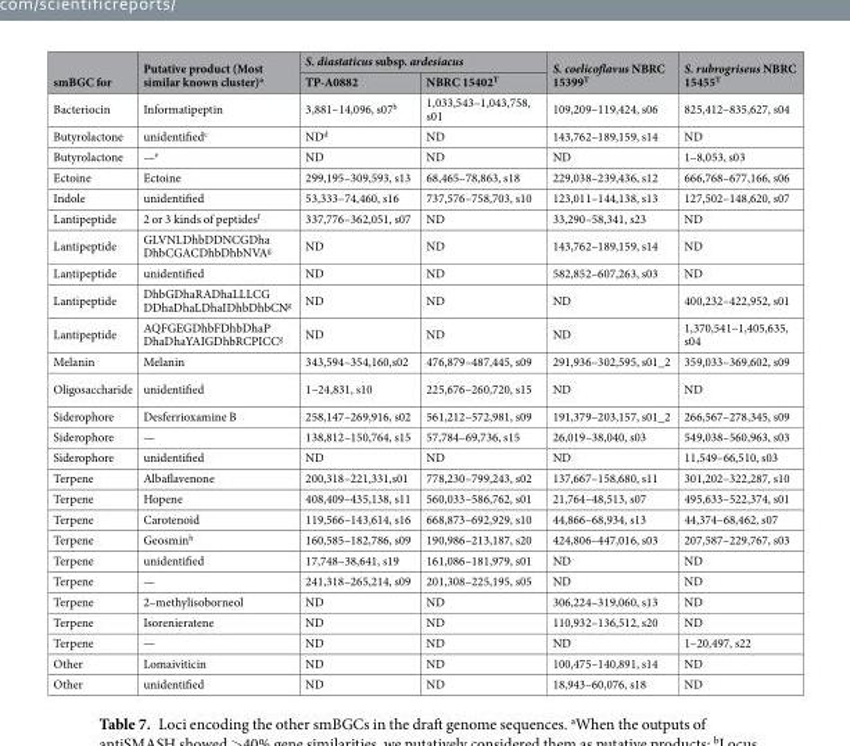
<table><thead><tr><td rowspan="2">smBGC for</td><td rowspan="2">Putative product (Most similar known cluster)<sup>a</sup></td><td colspan="2">S. diastaticus subsp. ardesiacus</td><td rowspan="2">S. coelicoflavus NBRC 15399<sup>T</sup></td><td rowspan="2">S. rubrogriseus NBRC 15455<sup>T</sup></td></tr><tr><td>TP-A0882</td><td>NBRC 15402<sup>T</sup></td></tr></thead><tbody><tr><td>Bacteriocin</td><td>Informatipeptin</td><td>3,881–14,096, s07<sup>b</sup></td><td>1,033,543–1,043,758, s01</td><td>109,209–119,424, s06</td><td>825,412–835,627, s04</td></tr><tr><td>Butyrolactone</td><td>unidentified<sup>c</sup></td><td>ND<sup>d</sup></td><td>ND</td><td>143,762–189,159, s14</td><td>ND</td></tr><tr><td>Butyrolactone</td><td>—<sup>e</sup></td><td>ND</td><td>ND</td><td>ND</td><td>1–8,053, s03</td></tr><tr><td>Ectoine</td><td>Ectoine</td><td>299,195–309,593, s13</td><td>68,465–78,863, s18</td><td>229,038–239,436, s12</td><td>666,768–677,166, s06</td></tr><tr><td>Indole</td><td>unidentified</td><td>53,333–74,460, s16</td><td>737,576–758,703, s10</td><td>123,011–144,138, s13</td><td>127,502–148,620, s07</td></tr><tr><td>Lantipeptide</td><td>2 or 3 kinds of peptides<sup>f</sup></td><td>337,776–362,051, s07</td><td>ND</td><td>33,290–58,341, s23</td><td>ND</td></tr><tr><td>Lantipeptide</td><td>GLVNLDhbDDNCGDha DhbCGACDhbDhbNVA<sup>g</sup></td><td>ND</td><td>ND</td><td>143,762–189,159, s14</td><td>ND</td></tr><tr><td>Lantipeptide</td><td>unidentified</td><td>ND</td><td>ND</td><td>582,852–607,263, s03</td><td>ND</td></tr><tr><td>Lantipeptide</td><td>DhbGDhaRADhaLLLCG DDhaDhaLDhaIDhbDhbCN<sup>g</sup></td><td>ND</td><td>ND</td><td>ND</td><td>400,232–422,952, s01</td></tr><tr><td>Lantipeptide</td><td>AQFGEGDhbFDhbDhaP DhaDhaYAIGDhbRCPICC<sup>g</sup></td><td>ND</td><td>ND</td><td>ND</td><td>1,370,541–1,405,635, s04</td></tr><tr><td>Melanin</td><td>Melanin</td><td>343,594–354,160,s02</td><td>476,879–487,445, s09</td><td>291,936–302,595, s01_2</td><td>359,033–369,602, s09</td></tr><tr><td>Oligosaccharide</td><td>unidentified</td><td>1–24,831, s10</td><td>225,676–260,720, s15</td><td>ND</td><td>ND</td></tr><tr><td>Siderophore</td><td>Desferrioxamine B</td><td>258,147–269,916, s02</td><td>561,212–572,981, s09</td><td>191,379–203,157, s01_2</td><td>266,567–278,345, s09</td></tr><tr><td>Siderophore</td><td>—</td><td>138,812–150,764, s15</td><td>57,784–69,736, s15</td><td>26,019–38,040, s03</td><td>549,038–560,963, s03</td></tr><tr><td>Siderophore</td><td>unidentified</td><td>ND</td><td>ND</td><td>ND</td><td>11,549–66,510, s03</td></tr><tr><td>Terpene</td><td>Albaflavenone</td><td>200,318–221,331,s01</td><td>778,230–799,243, s02</td><td>137,667–158,680, s11</td><td>301,202–322,287, s10</td></tr><tr><td>Terpene</td><td>Hopene</td><td>408,409–435,138, s11</td><td>560,033–586,762, s01</td><td>21,764–48,513, s07</td><td>495,633–522,374, s01</td></tr><tr><td>Terpene</td><td>Carotenoid</td><td>119,566–143,614, s16</td><td>668,873–692,929, s10</td><td>44,866–68,934, s13</td><td>44,374–68,462, s07</td></tr><tr><td>Terpene</td><td>Geosmin<sup>h</sup></td><td>160,585–182,786, s09</td><td>190,986–213,187, s20</td><td>424,806–447,016, s03</td><td>207,587–229,767, s03</td></tr><tr><td>Terpene</td><td>unidentified</td><td>17,748–38,641, s19</td><td>161,086–181,979, s01</td><td>ND</td><td>ND</td></tr><tr><td>Terpene</td><td>—</td><td>241,318–265,214, s09</td><td>201,308–225,195, s05</td><td>ND</td><td>ND</td></tr><tr><td>Terpene</td><td>2–methylisoborneol</td><td>ND</td><td>ND</td><td>306,224–319,060, s13</td><td>ND</td></tr><tr><td>Terpene</td><td>Isorenieratene</td><td>ND</td><td>ND</td><td>110,932–136,512, s20</td><td>ND</td></tr><tr><td>Terpene</td><td>—</td><td>ND</td><td>ND</td><td>ND</td><td>1–20,497, s22</td></tr><tr><td>Other</td><td>Lomaiviticin</td><td>ND</td><td>ND</td><td>100,475–140,891, s14</td><td>ND</td></tr><tr><td>Other</td><td>unidentified</td><td>ND</td><td>ND</td><td>18,943–60,076, s18</td><td>ND</td></tr></tbody></table>